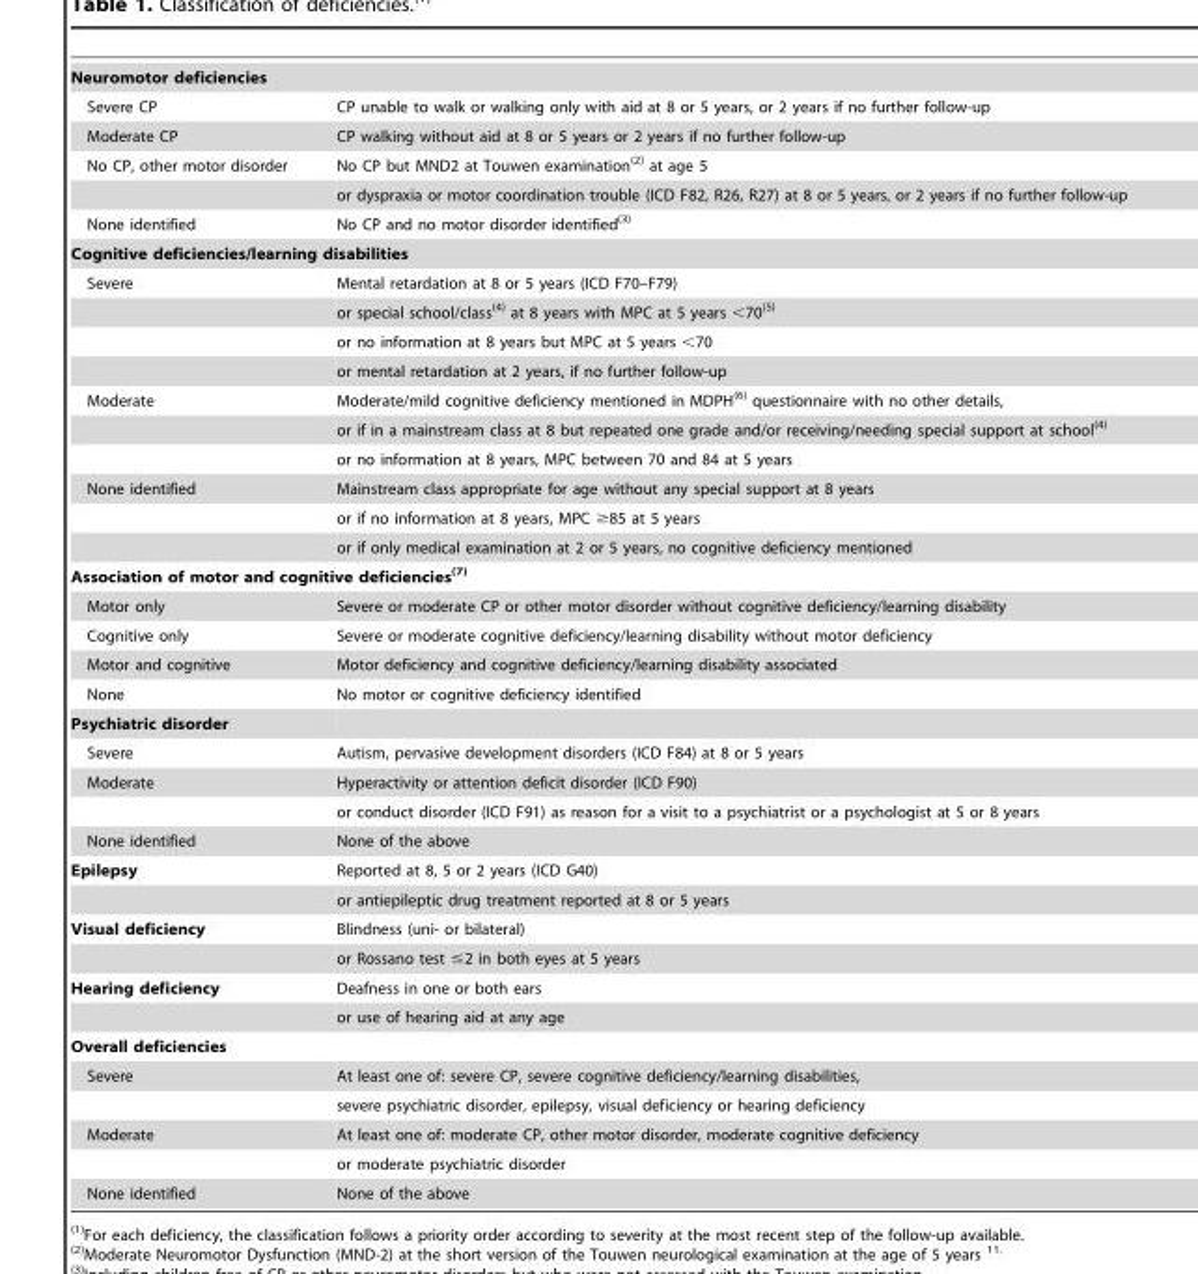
<table><tbody><tr><td colspan="2">Neuromotor deficiencies</td></tr><tr><td>Severe CP</td><td>CP unable to walk or walking only with aid at 8 or 5 years, or 2 years if no further follow-up</td></tr><tr><td>Moderate CP</td><td>CP walking without aid at 8 or 5 years or 2 years if no further follow-up</td></tr><tr><td rowspan="2">No CP, other motor disorder</td><td>No CP but MND2 at Touwen examination(2) at age 5</td></tr><tr><td>or dyspraxia or motor coordination trouble (ICD F82, R26, R27) at 8 or 5 years, or 2 years if no further follow-up</td></tr><tr><td>None identified</td><td>No CP and no motor disorder identified(3)</td></tr><tr><td colspan="2">Cognitive deficiencies/learning disabilities</td></tr><tr><td rowspan="4">Severe</td><td>Mental retardation at 8 or 5 years (ICD F70–F79)</td></tr><tr><td>or special school/class(4) at 8 years with MPC at 5 years &lt;70(5)</td></tr><tr><td>or no information at 8 years but MPC at 5 years &lt;70</td></tr><tr><td>or mental retardation at 2 years, if no further follow-up</td></tr><tr><td rowspan="3">Moderate</td><td>Moderate/mild cognitive deficiency mentioned in MDPH(6) questionnaire with no other details,</td></tr><tr><td>or if in a mainstream class at 8 but repeated one grade and/or receiving/needing special support at school(4)</td></tr><tr><td>or no information at 8 years, MPC between 70 and 84 at 5 years</td></tr><tr><td rowspan="3">None identified</td><td>Mainstream class appropriate for age without any special support at 8 years</td></tr><tr><td>or if no information at 8 years, MPC ≥85 at 5 years</td></tr><tr><td>or if only medical examination at 2 or 5 years, no cognitive deficiency mentioned</td></tr><tr><td colspan="2">Association of motor and cognitive deficiencies(7)</td></tr><tr><td>Motor only</td><td>Severe or moderate CP or other motor disorder without cognitive deficiency/learning disability</td></tr><tr><td>Cognitive only</td><td>Severe or moderate cognitive deficiency/learning disability without motor deficiency</td></tr><tr><td>Motor and cognitive</td><td>Motor deficiency and cognitive deficiency/learning disability associated</td></tr><tr><td>None</td><td>No motor or cognitive deficiency identified</td></tr><tr><td colspan="2">Psychiatric disorder</td></tr><tr><td>Severe</td><td>Autism, pervasive development disorders (ICD F84) at 8 or 5 years</td></tr><tr><td rowspan="2">Moderate</td><td>Hyperactivity or attention deficit disorder (ICD F90)</td></tr><tr><td>or conduct disorder (ICD F91) as reason for a visit to a psychiatrist or a psychologist at 5 or 8 years</td></tr><tr><td>None identified</td><td>None of the above</td></tr><tr><td rowspan="2">Epilepsy</td><td>Reported at 8, 5 or 2 years (ICD G40)</td></tr><tr><td>or antiepileptic drug treatment reported at 8 or 5 years</td></tr><tr><td rowspan="2">Visual deficiency</td><td>Blindness (uni- or bilateral)</td></tr><tr><td>or Rossano test ≤2 in both eyes at 5 years</td></tr><tr><td rowspan="2">Hearing deficiency</td><td>Deafness in one or both ears</td></tr><tr><td>or use of hearing aid at any age</td></tr><tr><td colspan="2">Overall deficiencies</td></tr><tr><td rowspan="2">Severe</td><td>At least one of: severe CP, severe cognitive deficiency/learning disabilities,</td></tr><tr><td>severe psychiatric disorder, epilepsy, visual deficiency or hearing deficiency</td></tr><tr><td rowspan="2">Moderate</td><td>At least one of: moderate CP, other motor disorder, moderate cognitive deficiency</td></tr><tr><td>or moderate psychiatric disorder</td></tr><tr><td>None identified</td><td>None of the above</td></tr></tbody></table>